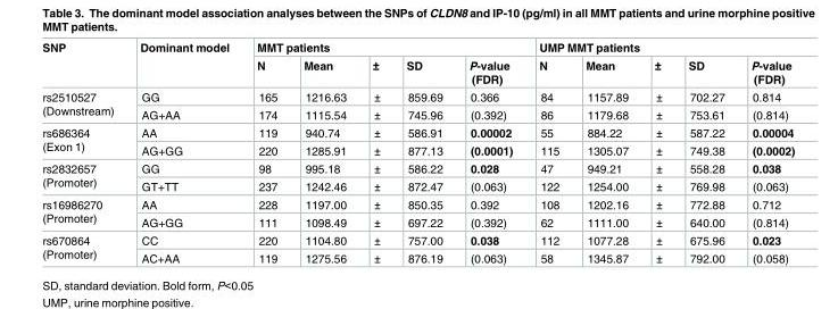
<table><thead><tr><td rowspan="2">SNP</td><td rowspan="2">Dominant model</td><td colspan="5">MMT patients</td><td colspan="5">UMP MMT patients</td></tr><tr><td>N</td><td>Mean</td><td>±</td><td>SD</td><td>P-value (FDR)</td><td>N</td><td>Mean</td><td>±</td><td>SD</td><td>P-value (FDR)</td></tr></thead><tbody><tr><td rowspan="2">rs2510527 (Downstream)</td><td>GG</td><td>165</td><td>1216.63</td><td>±</td><td>859.69</td><td>0.366</td><td>84</td><td>1157.89</td><td>±</td><td>702.27</td><td>0.814</td></tr><tr><td>AG+AA</td><td>174</td><td>1115.54</td><td>±</td><td>745.96</td><td>(0.392)</td><td>86</td><td>1179.68</td><td>±</td><td>753.61</td><td>(0.814)</td></tr><tr><td rowspan="2">rs686364 (Exon 1)</td><td>AA</td><td>119</td><td>940.74</td><td>±</td><td>586.91</td><td>0.00002</td><td>55</td><td>884.22</td><td>±</td><td>587.22</td><td>0.00004</td></tr><tr><td>AG+GG</td><td>220</td><td>1285.91</td><td>±</td><td>877.13</td><td>(0.0001)</td><td>115</td><td>1305.07</td><td>±</td><td>749.38</td><td>(0.0002)</td></tr><tr><td rowspan="2">rs2832657 (Promoter)</td><td>GG</td><td>98</td><td>995.18</td><td>±</td><td>586.22</td><td>0.028</td><td>47</td><td>949.21</td><td>±</td><td>558.28</td><td>0.038</td></tr><tr><td>GT+TT</td><td>237</td><td>1242.46</td><td>±</td><td>872.47</td><td>(0.063)</td><td>122</td><td>1254.00</td><td>±</td><td>769.98</td><td>(0.063)</td></tr><tr><td rowspan="2">rs16986270 (Promoter)</td><td>AA</td><td>228</td><td>1197.00</td><td>±</td><td>850.35</td><td>0.392</td><td>108</td><td>1202.16</td><td>±</td><td>772.88</td><td>0.712</td></tr><tr><td>AG+GG</td><td>111</td><td>1098.49</td><td>±</td><td>697.22</td><td>(0.392)</td><td>62</td><td>1111.00</td><td>±</td><td>640.00</td><td>(0.814)</td></tr><tr><td rowspan="2">rs670864 (Promoter)</td><td>CC</td><td>220</td><td>1104.80</td><td>±</td><td>757.00</td><td>0.038</td><td>112</td><td>1077.28</td><td>±</td><td>675.96</td><td>0.023</td></tr><tr><td>AC+AA</td><td>119</td><td>1275.56</td><td>±</td><td>876.19</td><td>(0.063)</td><td>58</td><td>1345.87</td><td>±</td><td>792.00</td><td>(0.058)</td></tr></tbody></table>